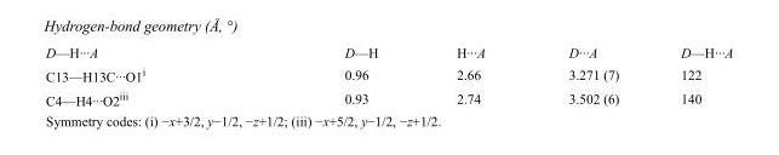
<table><tbody><tr><td>D—H···A</td><td>D—H</td><td>H···A</td><td>D···A</td><td>D—H···A</td></tr><tr><td>C13—H13C···O1<sup>i</sup></td><td>0.96</td><td>2.66</td><td>3.271 (7)</td><td>122</td></tr><tr><td>C4—H4···O2<sup>iii</sup></td><td>0.93</td><td>2.74</td><td>3.502 (6)</td><td>140</td></tr></tbody></table>